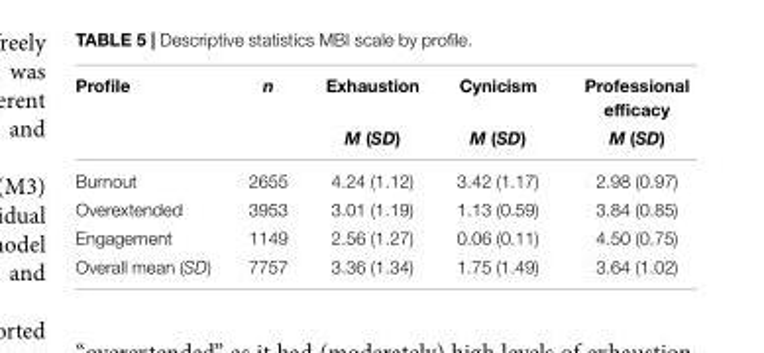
<table><thead><tr><td rowspan="2">Profile</td><td rowspan="2">n</td><td rowspan="2">Exhaustion M (SD)</td><td rowspan="2">Cynicism M (SD)</td><td rowspan="2">Professional efficacy M (SD)</td></tr><tr></tr></thead><tbody><tr><td>Burnout</td><td>2655</td><td>4.24 (1.12)</td><td>3.42 (1.17)</td><td>2.98 (0.97)</td></tr><tr><td>Overextended</td><td>3953</td><td>3.01 (1.19)</td><td>1.13 (0.59)</td><td>3.84 (0.85)</td></tr><tr><td>Engagement</td><td>1149</td><td>2.56 (1.27)</td><td>0.06 (0.11)</td><td>4.50 (0.75)</td></tr><tr><td>Overall mean (SD)</td><td>7757</td><td>3.36 (1.34)</td><td>1.75 (1.49)</td><td>3.64 (1.02)</td></tr></tbody></table>